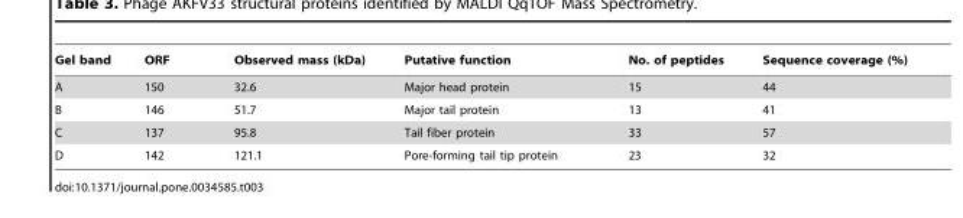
<table><thead><tr><td>Gel band</td><td>ORF</td><td>Observed mass (kDa)</td><td>Putative function</td><td>No. of peptides</td><td>Sequence coverage (%)</td></tr></thead><tbody><tr><td>A</td><td>150</td><td>32.6</td><td>Major head protein</td><td>15</td><td>44</td></tr><tr><td>B</td><td>146</td><td>51.7</td><td>Major tail protein</td><td>13</td><td>41</td></tr><tr><td>C</td><td>137</td><td>95.8</td><td>Tail fiber protein</td><td>33</td><td>57</td></tr><tr><td>D</td><td>142</td><td>121.1</td><td>Pore-forming tail tip protein</td><td>23</td><td>32</td></tr></tbody></table>